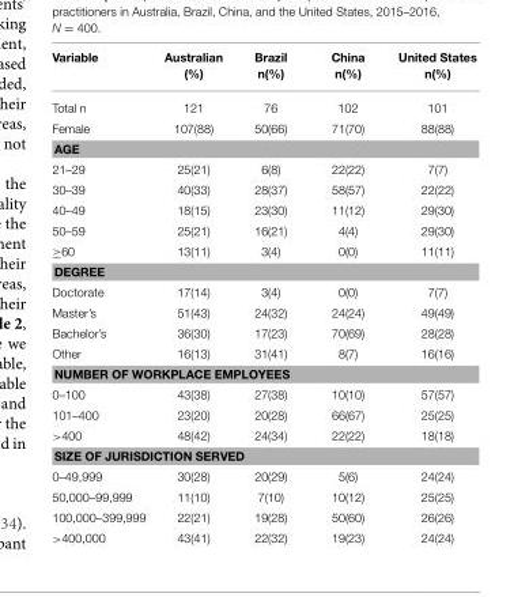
<table><thead><tr><td>Variable</td><td>Australian (%)</td><td>Brazil n(%)</td><td>China n(%)</td><td>United States n(%)</td></tr></thead><tbody><tr><td>Total n</td><td>121</td><td>76</td><td>102</td><td>101</td></tr><tr><td>Female</td><td>107(88)</td><td>50(66)</td><td>71(70)</td><td>88(88)</td></tr><tr><td colspan="5">AGE</td></tr><tr><td>21–29</td><td>25(21)</td><td>6(8)</td><td>22(22)</td><td>7(7)</td></tr><tr><td>30–39</td><td>40(33)</td><td>28(37)</td><td>58(57)</td><td>22(22)</td></tr><tr><td>40–49</td><td>18(15)</td><td>23(30)</td><td>11(12)</td><td>29(30)</td></tr><tr><td>50–59</td><td>25(21)</td><td>16(21)</td><td>4(4)</td><td>29(30)</td></tr><tr><td>≥60</td><td>13(11)</td><td>3(4)</td><td>0(0)</td><td>11(11)</td></tr><tr><td colspan="5">DEGREE</td></tr><tr><td>Doctorate</td><td>17(14)</td><td>3(4)</td><td>0(0)</td><td>7(7)</td></tr><tr><td>Master’s</td><td>51(43)</td><td>24(32)</td><td>24(24)</td><td>49(49)</td></tr><tr><td>Bachelor’s</td><td>36(30)</td><td>17(23)</td><td>70(69)</td><td>28(28)</td></tr><tr><td>Other</td><td>16(13)</td><td>31(41)</td><td>8(7)</td><td>16(16)</td></tr><tr><td colspan="5">NUMBER OF WORKPLACE EMPLOYEES</td></tr><tr><td>0–100</td><td>43(38)</td><td>27(38)</td><td>10(10)</td><td>57(57)</td></tr><tr><td>101–400</td><td>23(20)</td><td>20(28)</td><td>66(67)</td><td>25(25)</td></tr><tr><td>&gt;400</td><td>48(42)</td><td>24(34)</td><td>22(22)</td><td>18(18)</td></tr><tr><td colspan="5">SIZE OF JURISDICTION SERVED</td></tr><tr><td>0–49,999</td><td>30(28)</td><td>20(29)</td><td>5(6)</td><td>24(24)</td></tr><tr><td>50,000–99,999</td><td>11(10)</td><td>7(10)</td><td>10(12)</td><td>25(25)</td></tr><tr><td>100,000–399,999</td><td>22(21)</td><td>19(28)</td><td>50(60)</td><td>26(26)</td></tr><tr><td>&gt;400,000</td><td>43(41)</td><td>22(32)</td><td>19(23)</td><td>24(24)</td></tr></tbody></table>